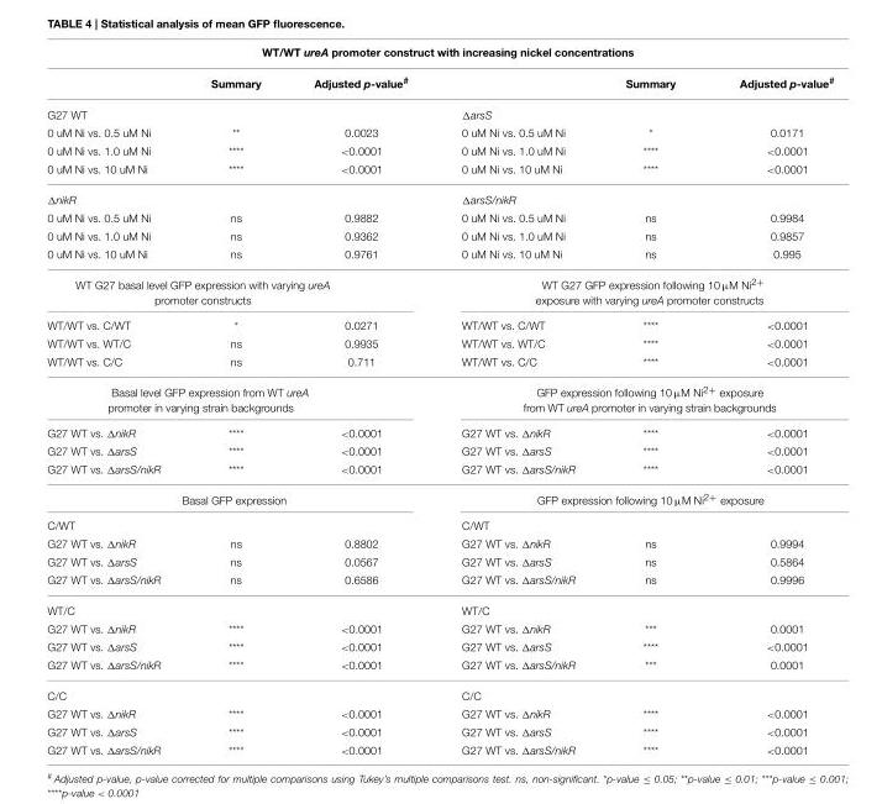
<table><thead><tr><td colspan="6">WT/WT ureA promoter construct with increasing nickel concentrations</td></tr><tr><td></td><td>Summary</td><td>Adjusted p-value<sup>#</sup></td><td></td><td>Summary</td><td>Adjusted p-value<sup>#</sup></td></tr></thead><tbody><tr><td>G27 WT</td><td></td><td></td><td>ΔarsS</td><td></td><td></td></tr><tr><td>0 uM Ni vs. 0.5 uM Ni</td><td>**</td><td>0.0023</td><td>0 uM Ni vs. 0.5 uM Ni</td><td>*</td><td>0.0171</td></tr><tr><td>0 uM Ni vs. 1.0 uM Ni</td><td>****</td><td>&lt;0.0001</td><td>0 uM Ni vs. 1.0 uM Ni</td><td>****</td><td>&lt;0.0001</td></tr><tr><td>0 uM Ni vs. 10 uM Ni</td><td>****</td><td>&lt;0.0001</td><td>0 uM Ni vs. 10 uM Ni</td><td>****</td><td>&lt;0.0001</td></tr><tr><td>ΔnikR</td><td></td><td></td><td>ΔarsS/nikR</td><td></td><td></td></tr><tr><td>0 uM Ni vs. 0.5 uM Ni</td><td>ns</td><td>0.9882</td><td>0 uM Ni vs. 0.5 uM Ni</td><td>ns</td><td>0.9984</td></tr><tr><td>0 uM Ni vs. 1.0 uM Ni</td><td>ns</td><td>0.9362</td><td>0 uM Ni vs. 1.0 uM Ni</td><td>ns</td><td>0.9857</td></tr><tr><td>0 uM Ni vs. 10 uM Ni</td><td>ns</td><td>0.9761</td><td>0 uM Ni vs. 10 uM Ni</td><td>ns</td><td>0.995</td></tr><tr><td colspan="3">WT G27 basal level GFP expression with varying ureA promoter constructs</td><td colspan="3">WT G27 GFP expression following 10 µM Ni<sup>2+</sup> exposure with varying ureA promoter constructs</td></tr><tr><td>WT/WT vs. C/WT</td><td>*</td><td>0.0271</td><td>WT/WT vs. C/WT</td><td>****</td><td>&lt;0.0001</td></tr><tr><td>WT/WT vs. WT/C</td><td>ns</td><td>0.9935</td><td>WT/WT vs. WT/C</td><td>****</td><td>&lt;0.0001</td></tr><tr><td>WT/WT vs. C/C</td><td>ns</td><td>0.711</td><td>WT/WT vs. C/C</td><td>****</td><td>&lt;0.0001</td></tr><tr><td colspan="3">Basal level GFP expression from WT ureA promoter in varying strain backgrounds</td><td colspan="3">GFP expression following 10 µM Ni<sup>2+</sup> exposure from WT ureA promoter in varying strain backgrounds</td></tr><tr><td>G27 WT vs. ΔnikR</td><td>****</td><td>&lt;0.0001</td><td>G27 WT vs. ΔnikR</td><td>****</td><td>&lt;0.0001</td></tr><tr><td>G27 WT vs. ΔarsS</td><td>****</td><td>&lt;0.0001</td><td>G27 WT vs. ΔarsS</td><td>****</td><td>&lt;0.0001</td></tr><tr><td>G27 WT vs. ΔarsS/nikR</td><td>****</td><td>&lt;0.0001</td><td>G27 WT vs. ΔarsS/nikR</td><td>****</td><td>&lt;0.0001</td></tr><tr><td colspan="3">Basal GFP expression</td><td colspan="3">GFP expression following 10 µM Ni<sup>2+</sup> exposure</td></tr><tr><td>C/WT</td><td></td><td></td><td>C/WT</td><td></td><td></td></tr><tr><td>G27 WT vs. ΔnikR</td><td>ns</td><td>0.8802</td><td>G27 WT vs. ΔnikR</td><td>ns</td><td>0.9994</td></tr><tr><td>G27 WT vs. ΔarsS</td><td>ns</td><td>0.0567</td><td>G27 WT vs. ΔarsS</td><td>ns</td><td>0.5864</td></tr><tr><td>G27 WT vs. ΔarsS/nikR</td><td>ns</td><td>0.6586</td><td>G27 WT vs. ΔarsS/nikR</td><td>ns</td><td>0.9996</td></tr><tr><td>WT/C</td><td></td><td></td><td>WT/C</td><td></td><td></td></tr><tr><td>G27 WT vs. ΔnikR</td><td>****</td><td>&lt;0.0001</td><td>G27 WT vs. ΔnikR</td><td>***</td><td>0.0001</td></tr><tr><td>G27 WT vs. ΔarsS</td><td>****</td><td>&lt;0.0001</td><td>G27 WT vs. ΔarsS</td><td>****</td><td>&lt;0.0001</td></tr><tr><td>G27 WT vs. ΔarsS/nikR</td><td>****</td><td>&lt;0.0001</td><td>G27 WT vs. ΔarsS/nikR</td><td>***</td><td>0.0001</td></tr><tr><td>C/C</td><td></td><td></td><td>C/C</td><td></td><td></td></tr><tr><td>G27 WT vs. ΔnikR</td><td>****</td><td>&lt;0.0001</td><td>G27 WT vs. ΔnikR</td><td>****</td><td>&lt;0.0001</td></tr><tr><td>G27 WT vs. ΔarsS</td><td>****</td><td>&lt;0.0001</td><td>G27 WT vs. ΔarsS</td><td>****</td><td>&lt;0.0001</td></tr><tr><td>G27 WT vs. ΔarsS/nikR</td><td>****</td><td>&lt;0.0001</td><td>G27 WT vs. ΔarsS/nikR</td><td>****</td><td>&lt;0.0001</td></tr></tbody></table>